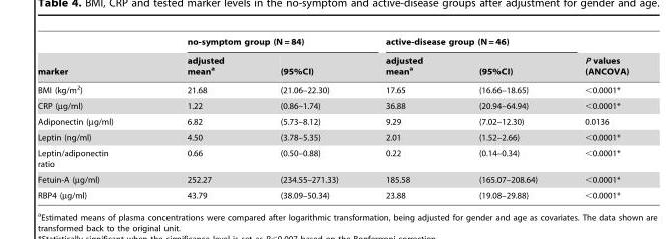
<table><thead><tr><td rowspan="2">marker</td><td colspan="2">no-symptom group (N = 84)</td><td colspan="2">active-disease group (N = 46)</td><td rowspan="2">P values (ANCOVA)</td></tr><tr><td>adjusted mean<sup>a</sup></td><td>(95%CI)</td><td>adjusted mean<sup>a</sup></td><td>(95%CI)</td></tr></thead><tbody><tr><td>BMI (kg/m<sup>2</sup>)</td><td>21.68</td><td>(21.06–22.30)</td><td>17.65</td><td>(16.66–18.65)</td><td>&lt;0.0001*</td></tr><tr><td>CRP (µg/ml)</td><td>1.22</td><td>(0.86–1.74)</td><td>36.88</td><td>(20.94–64.94)</td><td>&lt;0.0001*</td></tr><tr><td>Adiponectin (µg/ml)</td><td>6.82</td><td>(5.73–8.12)</td><td>9.29</td><td>(7.02–12.30)</td><td>0.0136</td></tr><tr><td>Leptin (ng/ml)</td><td>4.50</td><td>(3.78–5.35)</td><td>2.01</td><td>(1.52–2.66)</td><td>&lt;0.0001*</td></tr><tr><td>Leptin/adiponectin ratio</td><td>0.66</td><td>(0.50–0.88)</td><td>0.22</td><td>(0.14–0.34)</td><td>&lt;0.0001*</td></tr><tr><td>Fetuin-A (µg/ml)</td><td>252.27</td><td>(234.55–271.33)</td><td>185.58</td><td>(165.07–208.64)</td><td>&lt;0.0001*</td></tr><tr><td>RBP4 (µg/ml)</td><td>43.79</td><td>(38.09–50.34)</td><td>23.88</td><td>(19.08–29.88)</td><td>&lt;0.0001*</td></tr></tbody></table>